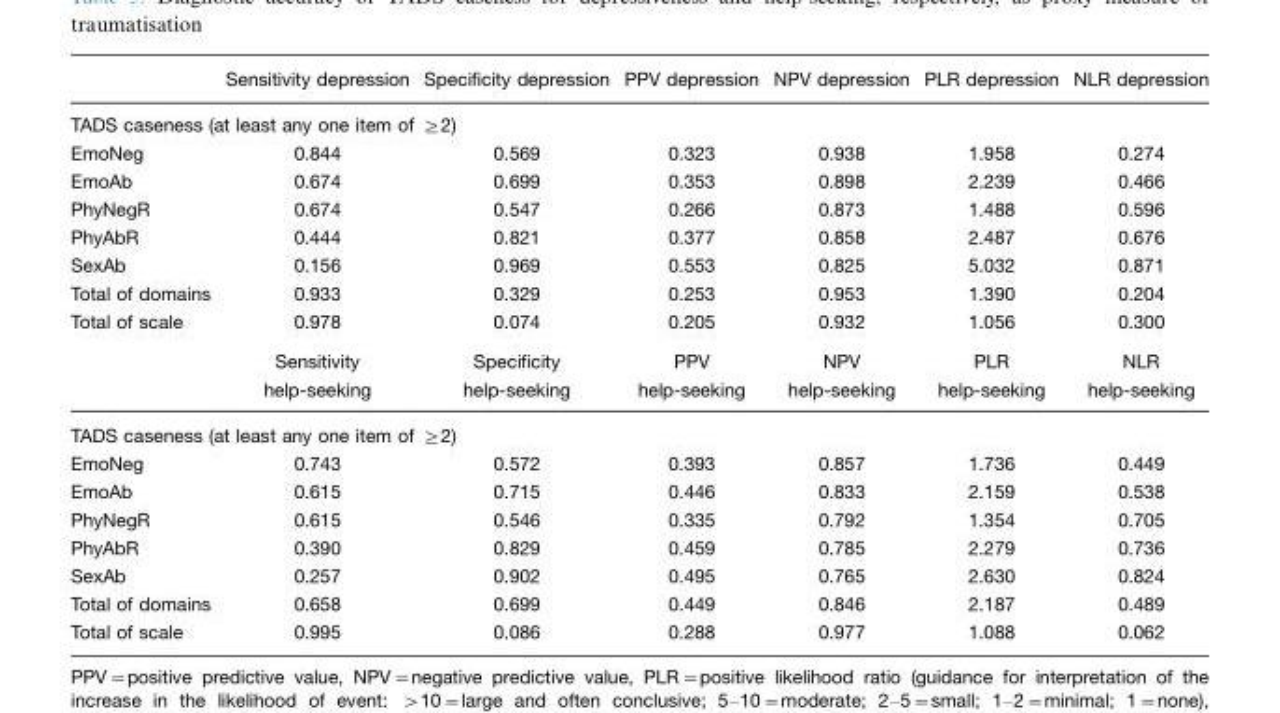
<table><thead><tr><td></td><td>Sensitivity depression</td><td>Specificity depression</td><td>PPV depression</td><td>NPV depression</td><td>PLR depression</td><td>NLR depression</td></tr></thead><tbody><tr><td colspan="7">TADS caseness (at least any one item of ≥2)</td></tr><tr><td>EmoNeg</td><td>0.844</td><td>0.569</td><td>0.323</td><td>0.938</td><td>1.958</td><td>0.274</td></tr><tr><td>EmoAb</td><td>0.674</td><td>0.699</td><td>0.353</td><td>0.898</td><td>2.239</td><td>0.466</td></tr><tr><td>PhyNegR</td><td>0.674</td><td>0.547</td><td>0.266</td><td>0.873</td><td>1.488</td><td>0.596</td></tr><tr><td>PhyAbR</td><td>0.444</td><td>0.821</td><td>0.377</td><td>0.858</td><td>2.487</td><td>0.676</td></tr><tr><td>SexAb</td><td>0.156</td><td>0.969</td><td>0.553</td><td>0.825</td><td>5.032</td><td>0.871</td></tr><tr><td>Total of domains</td><td>0.933</td><td>0.329</td><td>0.253</td><td>0.953</td><td>1.390</td><td>0.204</td></tr><tr><td rowspan="2">Total of scale</td><td>0.978</td><td>0.074</td><td>0.205</td><td>0.932</td><td>1.056</td><td>0.300</td></tr><tr><td>Sensitivity help-seeking</td><td>Specificity help-seeking</td><td>PPV help-seeking</td><td>NPV help-seeking</td><td>PLR help-seeking</td><td>NLR help-seeking</td></tr><tr><td colspan="7">TADS caseness (at least any one item of ≥2)</td></tr><tr><td>EmoNeg</td><td>0.743</td><td>0.572</td><td>0.393</td><td>0.857</td><td>1.736</td><td>0.449</td></tr><tr><td>EmoAb</td><td>0.615</td><td>0.715</td><td>0.446</td><td>0.833</td><td>2.159</td><td>0.538</td></tr><tr><td>PhyNegR</td><td>0.615</td><td>0.546</td><td>0.335</td><td>0.792</td><td>1.354</td><td>0.705</td></tr><tr><td>PhyAbR</td><td>0.390</td><td>0.829</td><td>0.459</td><td>0.785</td><td>2.279</td><td>0.736</td></tr><tr><td>SexAb</td><td>0.257</td><td>0.902</td><td>0.495</td><td>0.765</td><td>2.630</td><td>0.824</td></tr><tr><td>Total of domains</td><td>0.658</td><td>0.699</td><td>0.449</td><td>0.846</td><td>2.187</td><td>0.489</td></tr><tr><td>Total of scale</td><td>0.995</td><td>0.086</td><td>0.288</td><td>0.977</td><td>1.088</td><td>0.062</td></tr></tbody></table>